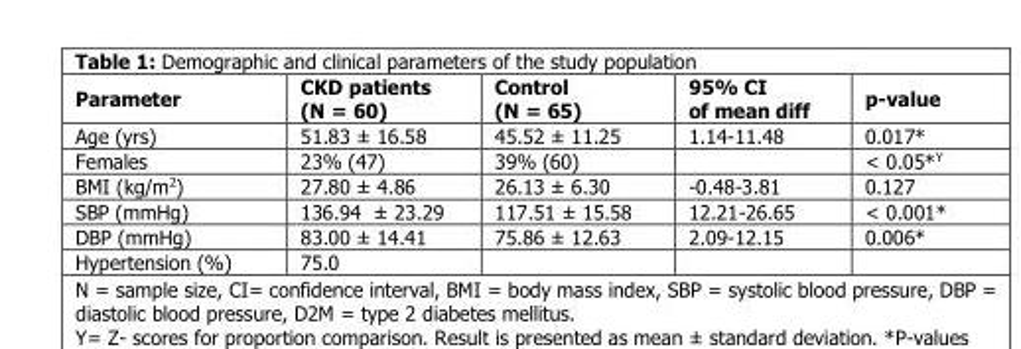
<table><thead><tr><td>Parameter</td><td>CKD patients (N = 60)</td><td>Control (N = 65)</td><td>95% CI of mean diff</td><td>p-value</td></tr></thead><tbody><tr><td>Age (yrs)</td><td>51.83 ± 16.58</td><td>45.52 ± 11.25</td><td>1.14-11.48</td><td>0.017*</td></tr><tr><td>Females</td><td>23% (47)</td><td>39% (60)</td><td></td><td>&lt; 0.05*<sup>Y</sup></td></tr><tr><td>BMI (kg/m<sup>2</sup>)</td><td>27.80 ± 4.86</td><td>26.13 ± 6.30</td><td>-0.48-3.81</td><td>0.127</td></tr><tr><td>SBP (mmHg)</td><td>136.94 ± 23.29</td><td>117.51 ± 15.58</td><td>12.21-26.65</td><td>&lt; 0.001*</td></tr><tr><td>DBP (mmHg)</td><td>83.00 ± 14.41</td><td>75.86 ± 12.63</td><td>2.09-12.15</td><td>0.006*</td></tr><tr><td>Hypertension (%)</td><td>75.0</td><td></td><td></td><td></td></tr></tbody></table>